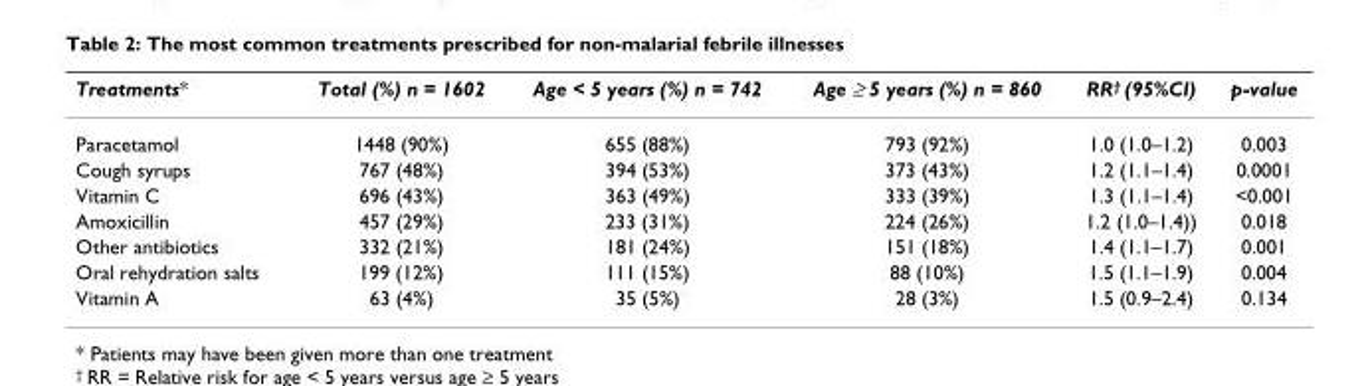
<table><thead><tr><td>Treatments*</td><td>Total (%) n = 1602</td><td>Age &lt; 5 years (%) n = 742</td><td>Age ≥ 5 years (%) n = 860</td><td>RR† (95%CI)</td><td>p-value</td></tr></thead><tbody><tr><td>Paracetamol</td><td>1448 (90%)</td><td>655 (88%)</td><td>793 (92%)</td><td>1.0 (1.0–1.2)</td><td>0.003</td></tr><tr><td>Cough syrups</td><td>767 (48%)</td><td>394 (53%)</td><td>373 (43%)</td><td>1.2 (1.1–1.4)</td><td>0.0001</td></tr><tr><td>Vitamin C</td><td>696 (43%)</td><td>363 (49%)</td><td>333 (39%)</td><td>1.3 (1.1–1.4)</td><td>&lt;0.001</td></tr><tr><td>Amoxicillin</td><td>457 (29%)</td><td>233 (31%)</td><td>224 (26%)</td><td>1.2 (1.0–1.4))</td><td>0.018</td></tr><tr><td>Other antibiotics</td><td>332 (21%)</td><td>181 (24%)</td><td>151 (18%)</td><td>1.4 (1.1–1.7)</td><td>0.001</td></tr><tr><td>Oral rehydration salts</td><td>199 (12%)</td><td>111 (15%)</td><td>88 (10%)</td><td>1.5 (1.1–1.9)</td><td>0.004</td></tr><tr><td>Vitamin A</td><td>63 (4%)</td><td>35 (5%)</td><td>28 (3%)</td><td>1.5 (0.9–2.4)</td><td>0.134</td></tr></tbody></table>